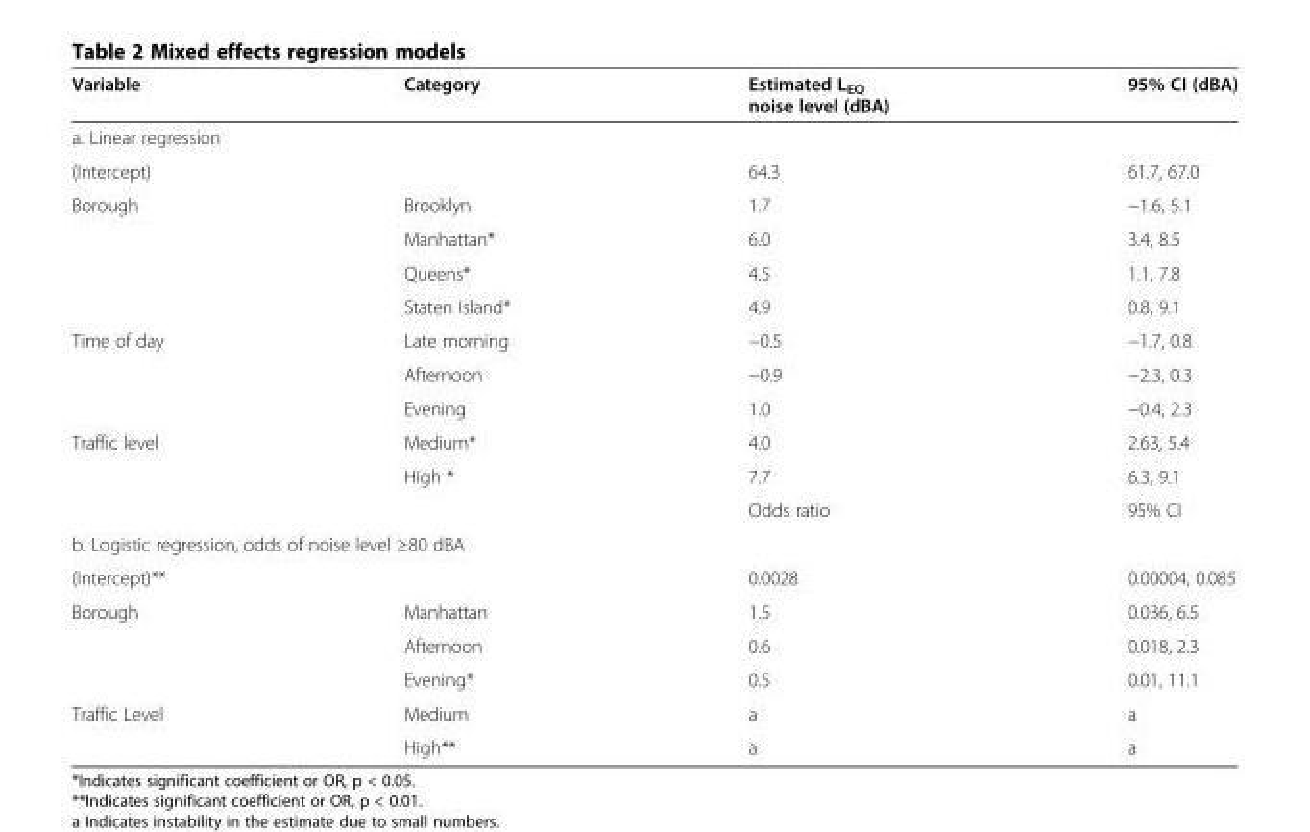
<table><thead><tr><td>Variable</td><td>Category</td><td>Estimated L<sub>EQ</sub> noise level (dBA)</td><td>95% CI (dBA)</td></tr></thead><tbody><tr><td colspan="4">a. Linear regression</td></tr><tr><td>(Intercept)</td><td></td><td>64.3</td><td>61.7, 67.0</td></tr><tr><td rowspan="4">Borough</td><td>Brooklyn</td><td>1.7</td><td>−1.6, 5.1</td></tr><tr><td>Manhattan*</td><td>6.0</td><td>3.4, 8.5</td></tr><tr><td>Queens*</td><td>4.5</td><td>1.1, 7.8</td></tr><tr><td>Staten Island*</td><td>4.9</td><td>0.8, 9.1</td></tr><tr><td rowspan="3">Time of day</td><td>Late morning</td><td>−0.5</td><td>−1.7, 0.8</td></tr><tr><td>Afternoon</td><td>−0.9</td><td>−2.3, 0.3</td></tr><tr><td>Evening</td><td>1.0</td><td>−0.4, 2.3</td></tr><tr><td rowspan="3">Traffic level</td><td>Medium*</td><td>4.0</td><td>2.63, 5.4</td></tr><tr><td>High *</td><td>7.7</td><td>6.3, 9.1</td></tr><tr><td></td><td>Odds ratio</td><td>95% CI</td></tr><tr><td colspan="4">b. Logistic regression, odds of noise level ≥80 dBA</td></tr><tr><td>(Intercept)**</td><td></td><td>0.0028</td><td>0.00004, 0.085</td></tr><tr><td rowspan="3">Borough</td><td>Manhattan</td><td>1.5</td><td>0.036, 6.5</td></tr><tr><td>Afternoon</td><td>0.6</td><td>0.018, 2.3</td></tr><tr><td>Evening*</td><td>0.5</td><td>0.01, 11.1</td></tr><tr><td rowspan="2">Traffic Level</td><td>Medium</td><td>a</td><td>a</td></tr><tr><td>High**</td><td>a</td><td>a</td></tr></tbody></table>